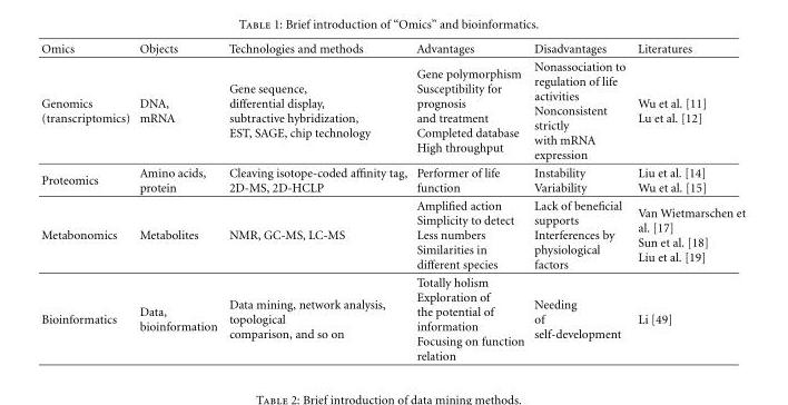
<table><thead><tr><td>Omics</td><td>Objects</td><td>Technologies and methods</td><td>Advantages</td><td>Disadvantages</td><td>Literatures</td></tr></thead><tbody><tr><td>Genomics (transcriptomics)</td><td>DNA, mRNA</td><td>Gene sequence, differential display, subtractive hybridization, EST, SAGE, chip technology</td><td>Gene polymorphism Susceptibility for prognosis and treatment Completed database High throughput</td><td>Nonassociation to regulation of life activities Nonconsistent strictly with mRNA expression</td><td>Wu et al. [11] Lu et al. [12]</td></tr><tr><td>Proteomics</td><td>Amino acids, protein</td><td>Cleaving isotope-coded affinity tag, 2D-MS, 2D-HCLP</td><td>Performer of life function</td><td>Instability Variability</td><td>Liu et al. [14] Wu et al. [15]</td></tr><tr><td>Metabonomics</td><td>Metabolites</td><td>NMR, GC-MS, LC-MS</td><td>Amplified action Simplicity to detect Less numbers Similarities in different species</td><td>Lack of beneficial supports Interferences by physiological factors</td><td>Van Wietmarschen et al. [17] Sun et al. [18] Liu et al. [19]</td></tr><tr><td>Bioinformatics</td><td>Data, bioinformation</td><td>Data mining, network analysis, topological comparison, and so on</td><td>Totally holism Exploration of the potential of information Focusing on function relation</td><td>Needing of self-development</td><td>Li [49]</td></tr></tbody></table>